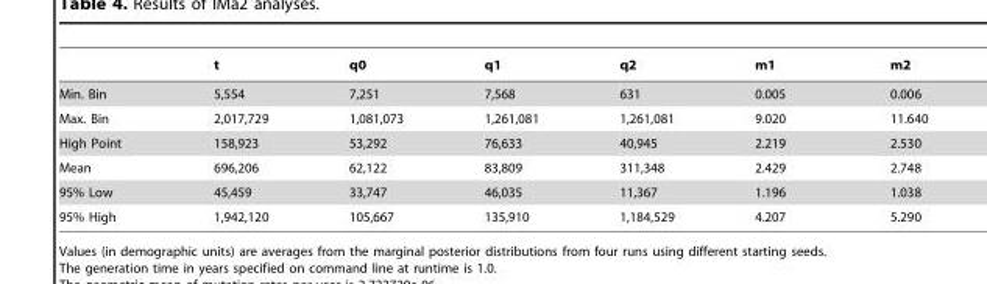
<table><thead><tr><td></td><td>t</td><td>q0</td><td>q1</td><td>q2</td><td>m1</td><td>m2</td></tr></thead><tbody><tr><td>Min. Bin</td><td>5,554</td><td>7,251</td><td>7,568</td><td>631</td><td>0.005</td><td>0.006</td></tr><tr><td>Max. Bin</td><td>2,017,729</td><td>1,081,073</td><td>1,261,081</td><td>1,261,081</td><td>9.020</td><td>11.640</td></tr><tr><td>High Point</td><td>158,923</td><td>53,292</td><td>76,633</td><td>40,945</td><td>2.219</td><td>2.530</td></tr><tr><td>Mean</td><td>696,206</td><td>62,122</td><td>83,809</td><td>311,348</td><td>2.429</td><td>2.748</td></tr><tr><td>95% Low</td><td>45,459</td><td>33,747</td><td>46,035</td><td>11,367</td><td>1.196</td><td>1.038</td></tr><tr><td>95% High</td><td>1,942,120</td><td>105,667</td><td>135,910</td><td>1,184,529</td><td>4.207</td><td>5.290</td></tr></tbody></table>